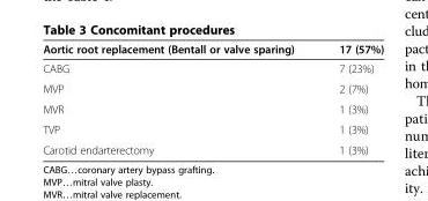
<table><thead><tr><td>Aortic root replacement (Bentall or valve sparing)</td><td>17 (57%)</td></tr></thead><tbody><tr><td>CABG</td><td>7 (23%)</td></tr><tr><td>MVP</td><td>2 (7%)</td></tr><tr><td>MVR</td><td>1 (3%)</td></tr><tr><td>TVP</td><td>1 (3%)</td></tr><tr><td>Carotid endarterectomy</td><td>1 (3%)</td></tr></tbody></table>